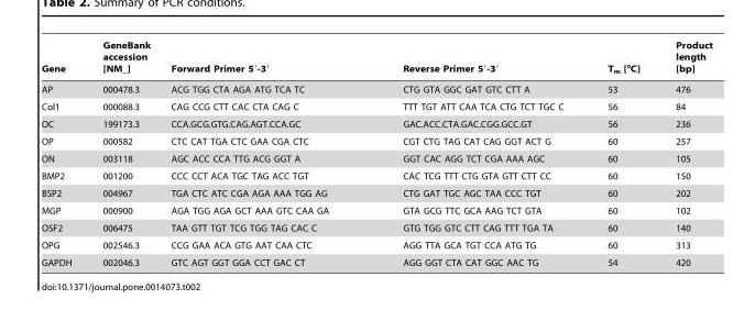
<table><thead><tr><td>Gene</td><td>GeneBank accession [NM_]</td><td>Forward Primer 5′-3′</td><td>Reverse Primer 5′-3′</td><td>T<sub>m</sub> [°C]</td><td>Product length [bp]</td></tr></thead><tbody><tr><td>AP</td><td>000478.3</td><td>ACG TGG CTA AGA ATG TCA TC</td><td>CTG GTA GGC GAT GTC CTT A</td><td>53</td><td>476</td></tr><tr><td>Col1</td><td>000088.3</td><td>CAG CCG CTT CAC CTA CAG C</td><td>TTT TGT ATT CAA TCA CTG TCT TGC C</td><td>56</td><td>84</td></tr><tr><td>OC</td><td>199173.3</td><td>CCA.GCG.GTG.CAG.AGT.CCA.GC</td><td>GAC.ACC.CTA.GAC.CGG.GCC.GT</td><td>56</td><td>236</td></tr><tr><td>OP</td><td>000582</td><td>CTC CAT TGA CTC GAA CGA CTC</td><td>CGT CTG TAG CAT CAG GGT ACT G</td><td>60</td><td>257</td></tr><tr><td>ON</td><td>003118</td><td>AGC ACC CCA TTG ACG GGT A</td><td>GGT CAC AGG TCT CGA AAA AGC</td><td>60</td><td>105</td></tr><tr><td>BMP2</td><td>001200</td><td>CCC CCT ACA TGC TAG ACC TGT</td><td>CAC TCG TTT CTG GTA GTT CTT CC</td><td>60</td><td>150</td></tr><tr><td>BSP2</td><td>004967</td><td>TGA CTC ATC CGA AGA AAA TGG AG</td><td>CTG GAT TGC AGC TAA CCC TGT</td><td>60</td><td>202</td></tr><tr><td>MGP</td><td>000900</td><td>AGA TGG AGA GCT AAA GTC CAA GA</td><td>GTA GCG TTC GCA AAG TCT GTA</td><td>60</td><td>102</td></tr><tr><td>OSF2</td><td>006475</td><td>TAA GTT TGT TCG TGG TAG CAC C</td><td>GTG TGG GTC CTT CAG TTT TGA TA</td><td>60</td><td>140</td></tr><tr><td>OPG</td><td>002546.3</td><td>CCG GAA ACA GTG AAT CAA CTC</td><td>AGG TTA GCA TGT CCA ATG TG</td><td>60</td><td>313</td></tr><tr><td>GAPDH</td><td>002046.3</td><td>GTC AGT GGT GGA CCT GAC CT</td><td>AGG GGT CTA CAT GGC AAC TG</td><td>54</td><td>420</td></tr></tbody></table>